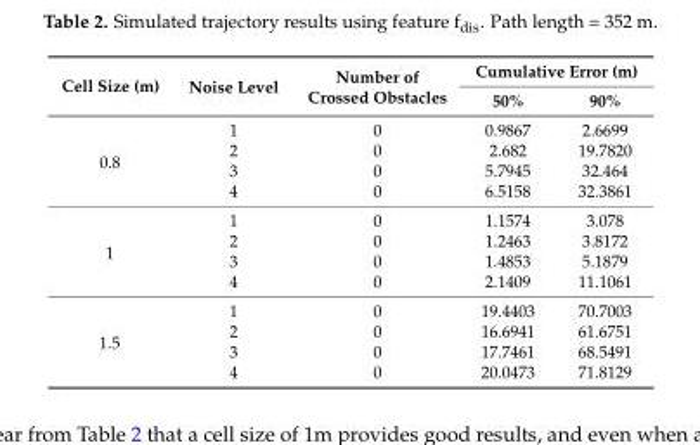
<table><thead><tr><td rowspan="2">Cell Size (m)</td><td rowspan="2">Noise Level</td><td rowspan="2">Number of Crossed Obstacles</td><td colspan="2">Cumulative Error (m)</td></tr><tr><td>50%</td><td>90%</td></tr></thead><tbody><tr><td rowspan="4">0.8</td><td>1</td><td>0</td><td>0.9867</td><td>2.6699</td></tr><tr><td>2</td><td>0</td><td>2.682</td><td>19.7820</td></tr><tr><td>3</td><td>0</td><td>5.7945</td><td>32.464</td></tr><tr><td>4</td><td>0</td><td>6.5158</td><td>32.3861</td></tr><tr><td rowspan="4">1</td><td>1</td><td>0</td><td>1.1574</td><td>3.078</td></tr><tr><td>2</td><td>0</td><td>1.2463</td><td>3.8172</td></tr><tr><td>3</td><td>0</td><td>1.4853</td><td>5.1879</td></tr><tr><td>4</td><td>0</td><td>2.1409</td><td>11.1061</td></tr><tr><td rowspan="4">1.5</td><td>1</td><td>0</td><td>19.4403</td><td>70.7003</td></tr><tr><td>2</td><td>0</td><td>16.6941</td><td>61.6751</td></tr><tr><td>3</td><td>0</td><td>17.7461</td><td>68.5491</td></tr><tr><td>4</td><td>0</td><td>20.0473</td><td>71.8129</td></tr></tbody></table>